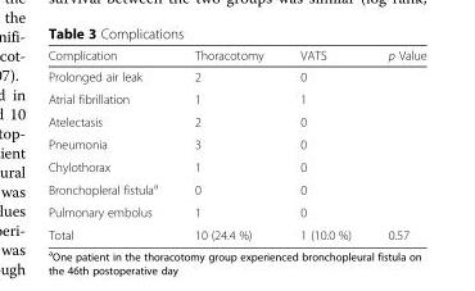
<table><thead><tr><td>Complication</td><td>Thoracotomy</td><td>VATS</td><td>p Value</td></tr></thead><tbody><tr><td>Prolonged air leak</td><td>2</td><td>0</td><td></td></tr><tr><td>Atrial fibrillation</td><td>1</td><td>1</td><td></td></tr><tr><td>Atelectasis</td><td>2</td><td>0</td><td></td></tr><tr><td>Pneumonia</td><td>3</td><td>0</td><td></td></tr><tr><td>Chylothorax</td><td>1</td><td>0</td><td></td></tr><tr><td>Bronchopleral fistula<sup>a</sup></td><td>0</td><td>0</td><td></td></tr><tr><td>Pulmonary embolus</td><td>1</td><td>0</td><td></td></tr><tr><td>Total</td><td>10 (24.4 %)</td><td>1 (10.0 %)</td><td>0.57</td></tr></tbody></table>